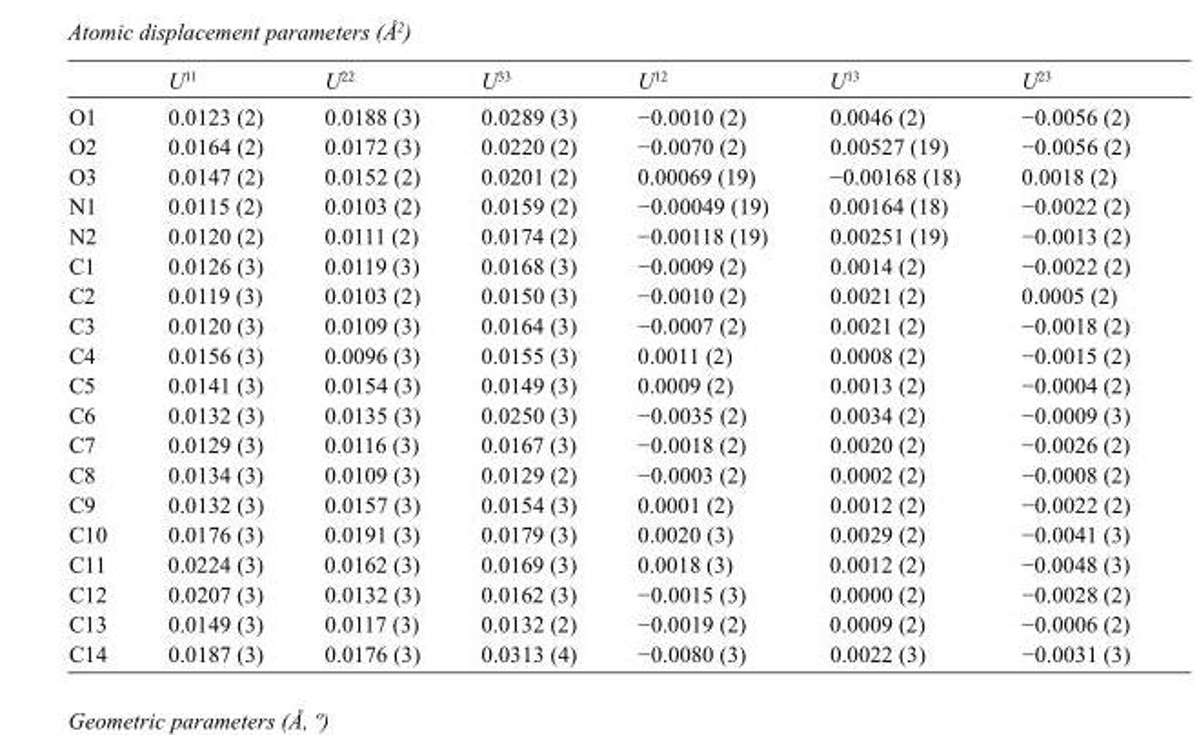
<table><thead><tr><td></td><td>U<sup>11</sup></td><td>U<sup>22</sup></td><td>U<sup>33</sup></td><td>U<sup>12</sup></td><td>U<sup>13</sup></td><td>U<sup>23</sup></td></tr></thead><tbody><tr><td>O1</td><td>0.0123 (2)</td><td>0.0188 (3)</td><td>0.0289 (3)</td><td>−0.0010 (2)</td><td>0.0046 (2)</td><td>−0.0056 (2)</td></tr><tr><td>O2</td><td>0.0164 (2)</td><td>0.0172 (3)</td><td>0.0220 (2)</td><td>−0.0070 (2)</td><td>0.00527 (19)</td><td>−0.0056 (2)</td></tr><tr><td>O3</td><td>0.0147 (2)</td><td>0.0152 (2)</td><td>0.0201 (2)</td><td>0.00069 (19)</td><td>−0.00168 (18)</td><td>0.0018 (2)</td></tr><tr><td>N1</td><td>0.0115 (2)</td><td>0.0103 (2)</td><td>0.0159 (2)</td><td>−0.00049 (19)</td><td>0.00164 (18)</td><td>−0.0022 (2)</td></tr><tr><td>N2</td><td>0.0120 (2)</td><td>0.0111 (2)</td><td>0.0174 (2)</td><td>−0.00118 (19)</td><td>0.00251 (19)</td><td>−0.0013 (2)</td></tr><tr><td>C1</td><td>0.0126 (3)</td><td>0.0119 (3)</td><td>0.0168 (3)</td><td>−0.0009 (2)</td><td>0.0014 (2)</td><td>−0.0022 (2)</td></tr><tr><td>C2</td><td>0.0119 (3)</td><td>0.0103 (2)</td><td>0.0150 (3)</td><td>−0.0010 (2)</td><td>0.0021 (2)</td><td>0.0005 (2)</td></tr><tr><td>C3</td><td>0.0120 (3)</td><td>0.0109 (3)</td><td>0.0164 (3)</td><td>−0.0007 (2)</td><td>0.0021 (2)</td><td>−0.0018 (2)</td></tr><tr><td>C4</td><td>0.0156 (3)</td><td>0.0096 (3)</td><td>0.0155 (3)</td><td>0.0011 (2)</td><td>0.0008 (2)</td><td>−0.0015 (2)</td></tr><tr><td>C5</td><td>0.0141 (3)</td><td>0.0154 (3)</td><td>0.0149 (3)</td><td>0.0009 (2)</td><td>0.0013 (2)</td><td>−0.0004 (2)</td></tr><tr><td>C6</td><td>0.0132 (3)</td><td>0.0135 (3)</td><td>0.0250 (3)</td><td>−0.0035 (2)</td><td>0.0034 (2)</td><td>−0.0009 (3)</td></tr><tr><td>C7</td><td>0.0129 (3)</td><td>0.0116 (3)</td><td>0.0167 (3)</td><td>−0.0018 (2)</td><td>0.0020 (2)</td><td>−0.0026 (2)</td></tr><tr><td>C8</td><td>0.0134 (3)</td><td>0.0109 (3)</td><td>0.0129 (2)</td><td>−0.0003 (2)</td><td>0.0002 (2)</td><td>−0.0008 (2)</td></tr><tr><td>C9</td><td>0.0132 (3)</td><td>0.0157 (3)</td><td>0.0154 (3)</td><td>0.0001 (2)</td><td>0.0012 (2)</td><td>−0.0022 (2)</td></tr><tr><td>C10</td><td>0.0176 (3)</td><td>0.0191 (3)</td><td>0.0179 (3)</td><td>0.0020 (3)</td><td>0.0029 (2)</td><td>−0.0041 (3)</td></tr><tr><td>C11</td><td>0.0224 (3)</td><td>0.0162 (3)</td><td>0.0169 (3)</td><td>0.0018 (3)</td><td>0.0012 (2)</td><td>−0.0048 (3)</td></tr><tr><td>C12</td><td>0.0207 (3)</td><td>0.0132 (3)</td><td>0.0162 (3)</td><td>−0.0015 (3)</td><td>0.0000 (2)</td><td>−0.0028 (2)</td></tr><tr><td>C13</td><td>0.0149 (3)</td><td>0.0117 (3)</td><td>0.0132 (2)</td><td>−0.0019 (2)</td><td>0.0009 (2)</td><td>−0.0006 (2)</td></tr><tr><td>C14</td><td>0.0187 (3)</td><td>0.0176 (3)</td><td>0.0313 (4)</td><td>−0.0080 (3)</td><td>0.0022 (3)</td><td>−0.0031 (3)</td></tr></tbody></table>